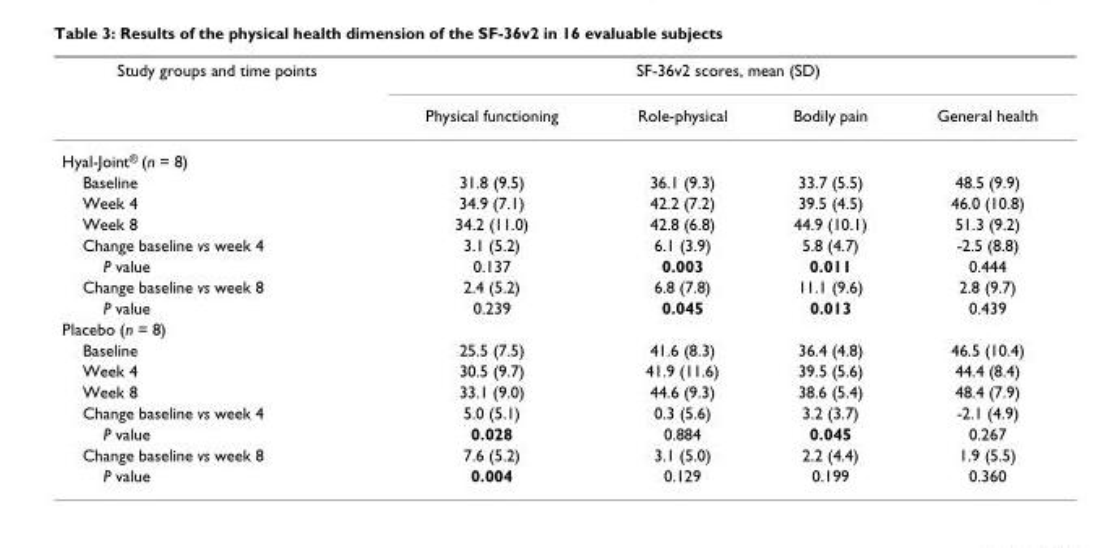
<table><thead><tr><td rowspan="2">Study groups and time points</td><td colspan="4">SF-36v2 scores, mean (SD)</td></tr><tr><td>Physical functioning</td><td>Role-physical</td><td>Bodily pain</td><td>General health</td></tr></thead><tbody><tr><td colspan="5">Hyal-Joint<sup>®</sup> (n = 8)</td></tr><tr><td>Baseline</td><td>31.8 (9.5)</td><td>36.1 (9.3)</td><td>33.7 (5.5)</td><td>48.5 (9.9)</td></tr><tr><td>Week 4</td><td>34.9 (7.1)</td><td>42.2 (7.2)</td><td>39.5 (4.5)</td><td>46.0 (10.8)</td></tr><tr><td>Week 8</td><td>34.2 (11.0)</td><td>42.8 (6.8)</td><td>44.9 (10.1)</td><td>51.3 (9.2)</td></tr><tr><td>Change baseline vs week 4</td><td>3.1 (5.2)</td><td>6.1 (3.9)</td><td>5.8 (4.7)</td><td>-2.5 (8.8)</td></tr><tr><td>P value</td><td>0.137</td><td>0.003</td><td>0.011</td><td>0.444</td></tr><tr><td>Change baseline vs week 8</td><td>2.4 (5.2)</td><td>6.8 (7.8)</td><td>11.1 (9.6)</td><td>2.8 (9.7)</td></tr><tr><td>P value</td><td>0.239</td><td>0.045</td><td>0.013</td><td>0.439</td></tr><tr><td colspan="5">Placebo (n = 8)</td></tr><tr><td>Baseline</td><td>25.5 (7.5)</td><td>41.6 (8.3)</td><td>36.4 (4.8)</td><td>46.5 (10.4)</td></tr><tr><td>Week 4</td><td>30.5 (9.7)</td><td>41.9 (11.6)</td><td>39.5 (5.6)</td><td>44.4 (8.4)</td></tr><tr><td>Week 8</td><td>33.1 (9.0)</td><td>44.6 (9.3)</td><td>38.6 (5.4)</td><td>48.4 (7.9)</td></tr><tr><td>Change baseline vs week 4</td><td>5.0 (5.1)</td><td>0.3 (5.6)</td><td>3.2 (3.7)</td><td>-2.1 (4.9)</td></tr><tr><td>P value</td><td>0.028</td><td>0.884</td><td>0.045</td><td>0.267</td></tr><tr><td>Change baseline vs week 8</td><td>7.6 (5.2)</td><td>3.1 (5.0)</td><td>2.2 (4.4)</td><td>1.9 (5.5)</td></tr><tr><td>P value</td><td>0.004</td><td>0.129</td><td>0.199</td><td>0.360</td></tr></tbody></table>